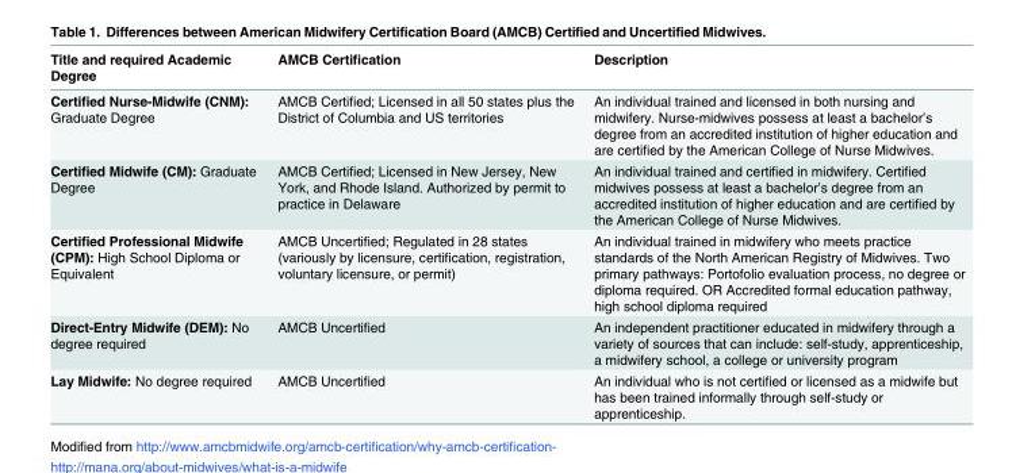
<table><thead><tr><td>Title and required Academic Degree</td><td>AMCB Certification</td><td>Description</td></tr></thead><tbody><tr><td>Certified Nurse-Midwife (CNM): Graduate Degree</td><td>AMCB Certified; Licensed in all 50 states plus the District of Columbia and US territories</td><td>An individual trained and licensed in both nursing and midwifery. Nurse-midwives possess at least a bachelor’s degree from an accredited institution of higher education and are certified by the American College of Nurse Midwives.</td></tr><tr><td>Certified Midwife (CM): Graduate Degree</td><td>AMCB Certified; Licensed in New Jersey, New York, and Rhode Island. Authorized by permit to practice in Delaware</td><td>An individual trained and certified in midwifery. Certified midwives possess at least a bachelor’s degree from an accredited institution of higher education and are certified by the American College of Nurse Midwives.</td></tr><tr><td>Certified Professional Midwife (CPM): High School Diploma or Equivalent</td><td>AMCB Uncertified; Regulated in 28 states (variously by licensure, certification, registration, voluntary licensure, or permit)</td><td>An individual trained in midwifery who meets practice standards of the North American Registry of Midwives. Two primary pathways: Portofolio evaluation process, no degree or diploma required. OR Accredited formal education pathway, high school diploma required</td></tr><tr><td>Direct-Entry Midwife (DEM): No degree required</td><td>AMCB Uncertified</td><td>An independent practitioner educated in midwifery through a variety of sources that can include: self-study, apprenticeship, a midwifery school, a college or university program</td></tr><tr><td>Lay Midwife: No degree required</td><td>AMCB Uncertified</td><td>An individual who is not certified or licensed as a midwife but has been trained informally through self-study or apprenticeship.</td></tr></tbody></table>